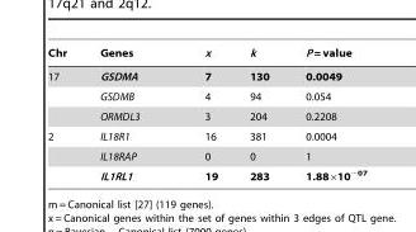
<table><thead><tr><td>Chr</td><td>Genes</td><td>x</td><td>k</td><td>P = value</td></tr></thead><tbody><tr><td rowspan="3">17</td><td>GSDMA</td><td>7</td><td>130</td><td>0.0049</td></tr><tr><td>GSDMB</td><td>4</td><td>94</td><td>0.054</td></tr><tr><td>ORMDL3</td><td>3</td><td>204</td><td>0.2208</td></tr><tr><td rowspan="3">2</td><td>IL18R1</td><td>16</td><td>381</td><td>0.0004</td></tr><tr><td>IL18RAP</td><td>0</td><td>0</td><td>1</td></tr><tr><td>IL1RL1</td><td>19</td><td>283</td><td>1.88×10<sup>−07</sup></td></tr></tbody></table>